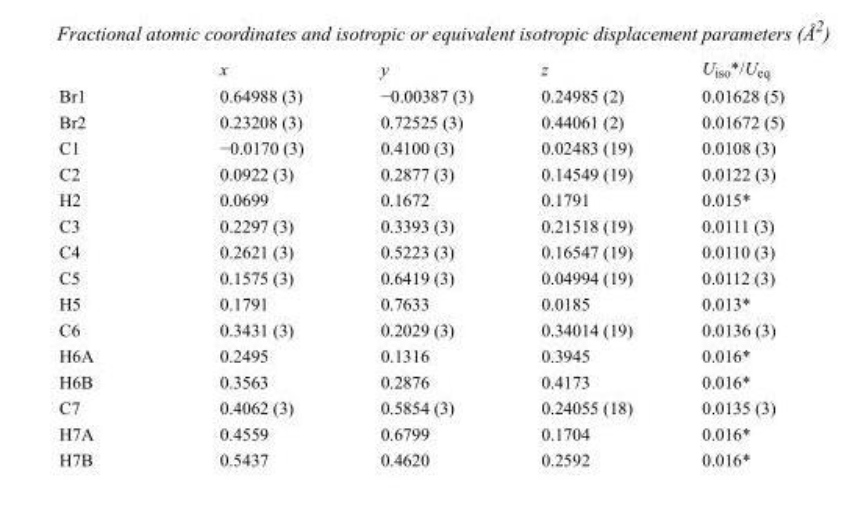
<table><thead><tr><td></td><td>x</td><td>y</td><td>z</td><td>U<sub>iso</sub>*/U<sub>eq</sub></td></tr></thead><tbody><tr><td>Br1</td><td>0.64988 (3)</td><td>−0.00387 (3)</td><td>0.24985 (2)</td><td>0.01628 (5)</td></tr><tr><td>Br2</td><td>0.23208 (3)</td><td>0.72525 (3)</td><td>0.44061 (2)</td><td>0.01672 (5)</td></tr><tr><td>C1</td><td>−0.0170 (3)</td><td>0.4100 (3)</td><td>0.02483 (19)</td><td>0.0108 (3)</td></tr><tr><td>C2</td><td>0.0922 (3)</td><td>0.2877 (3)</td><td>0.14549 (19)</td><td>0.0122 (3)</td></tr><tr><td>H2</td><td>0.0699</td><td>0.1672</td><td>0.1791</td><td>0.015*</td></tr><tr><td>C3</td><td>0.2297 (3)</td><td>0.3393 (3)</td><td>0.21518 (19)</td><td>0.0111 (3)</td></tr><tr><td>C4</td><td>0.2621 (3)</td><td>0.5223 (3)</td><td>0.16547 (19)</td><td>0.0110 (3)</td></tr><tr><td>C5</td><td>0.1575 (3)</td><td>0.6419 (3)</td><td>0.04994 (19)</td><td>0.0112 (3)</td></tr><tr><td>H5</td><td>0.1791</td><td>0.7633</td><td>0.0185</td><td>0.013*</td></tr><tr><td>C6</td><td>0.3431 (3)</td><td>0.2029 (3)</td><td>0.34014 (19)</td><td>0.0136 (3)</td></tr><tr><td>H6A</td><td>0.2495</td><td>0.1316</td><td>0.3945</td><td>0.016*</td></tr><tr><td>H6B</td><td>0.3563</td><td>0.2876</td><td>0.4173</td><td>0.016*</td></tr><tr><td>C7</td><td>0.4062 (3)</td><td>0.5854 (3)</td><td>0.24055 (18)</td><td>0.0135 (3)</td></tr><tr><td>H7A</td><td>0.4559</td><td>0.6799</td><td>0.1704</td><td>0.016*</td></tr><tr><td>H7B</td><td>0.5437</td><td>0.4620</td><td>0.2592</td><td>0.016*</td></tr></tbody></table>